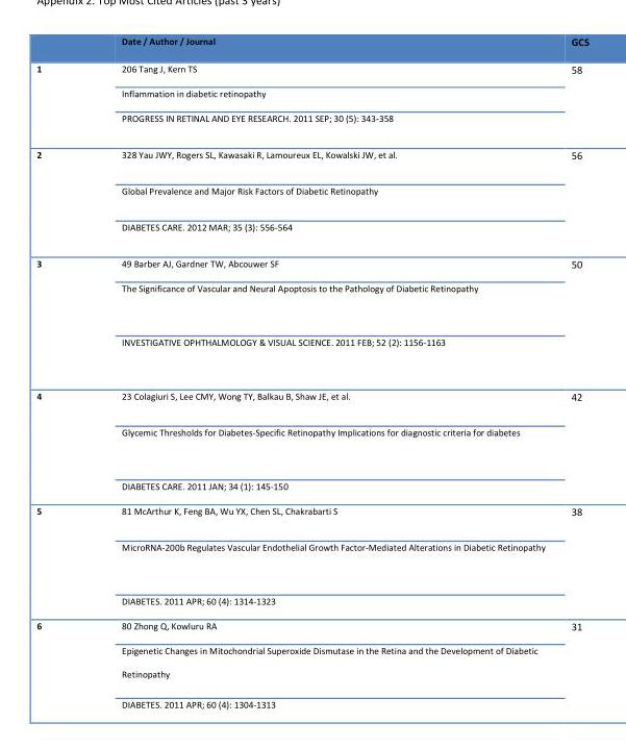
<table><thead><tr><td></td><td>Date / Author / Journal</td><td>GCS</td></tr></thead><tbody><tr><td rowspan="3">1</td><td>206 Tang J, Kern TS</td><td rowspan="3">58</td></tr><tr><td>Inflammation in diabetic retinopathy</td></tr><tr><td>PROGRESS IN RETINAL AND EYE RESEARCH. 2011 SEP; 30 (5): 343-358</td></tr><tr><td rowspan="3">2</td><td>328 Yau JWY, Rogers SL, Kawasaki R, Lamoureux EL, Kowalski JW, et al.</td><td rowspan="3">56</td></tr><tr><td>Global Prevalence and Major Risk Factors of Diabetic Retinopathy</td></tr><tr><td>DIABETES CARE. 2012 MAR; 35 (3): 556-564</td></tr><tr><td rowspan="3">3</td><td>49 Barber AJ, Gardner TW, Abcouwer SF</td><td rowspan="3">50</td></tr><tr><td>The Significance of Vascular and Neural Apoptosis to the Pathology of Diabetic Retinopathy</td></tr><tr><td>INVESTIGATIVE OPHTHALMOLOGY &amp; VISUAL SCIENCE. 2011 FEB; 52 (2): 1156-1163</td></tr><tr><td rowspan="3">4</td><td>23 Colagiuri S, Lee CMY, Wong TY, Balkau B, Shaw JE, et al.</td><td rowspan="3">42</td></tr><tr><td>Glycemic Thresholds for Diabetes-Specific Retinopathy Implications for diagnostic criteria for diabetes</td></tr><tr><td>DIABETES CARE. 2011 JAN; 34 (1): 145-150</td></tr><tr><td rowspan="3">5</td><td>81 McArthur K, Feng BA, Wu YX, Chen SL, Chakrabarti S</td><td rowspan="3">38</td></tr><tr><td>MicroRNA-200b Regulates Vascular Endothelial Growth Factor-Mediated Alterations in Diabetic Retinopathy</td></tr><tr><td>DIABETES. 2011 APR; 60 (4): 1314-1323</td></tr><tr><td rowspan="3">6</td><td>80 Zhong Q, Kowluru RA</td><td rowspan="3">31</td></tr><tr><td>Epigenetic Changes in Mitochondrial Superoxide Dismutase in the Retina and the Development of Diabetic Retinopathy</td></tr><tr><td>DIABETES. 2011 APR; 60 (4): 1304-1313</td></tr></tbody></table>